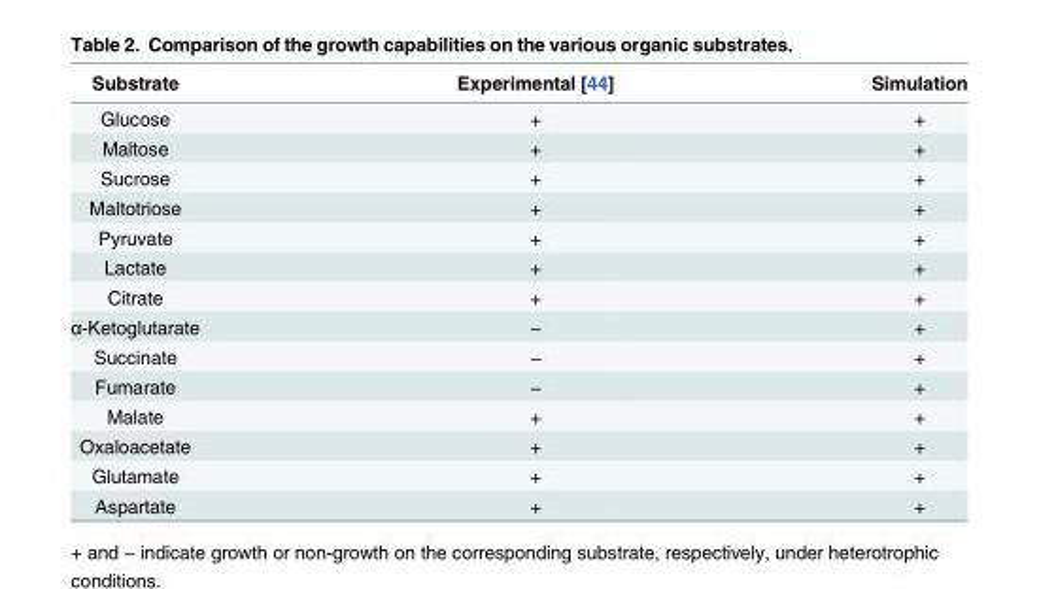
<table><thead><tr><td>Substrate</td><td>Experimental [44]</td><td>Simulation</td></tr></thead><tbody><tr><td>Glucose</td><td>+</td><td>+</td></tr><tr><td>Maltose</td><td>+</td><td>+</td></tr><tr><td>Sucrose</td><td>+</td><td>+</td></tr><tr><td>Maltotriose</td><td>+</td><td>+</td></tr><tr><td>Pyruvate</td><td>+</td><td>+</td></tr><tr><td>Lactate</td><td>+</td><td>+</td></tr><tr><td>Citrate</td><td>+</td><td>+</td></tr><tr><td>α-Ketoglutarate</td><td>−</td><td>+</td></tr><tr><td>Succinate</td><td>−</td><td>+</td></tr><tr><td>Fumarate</td><td>−</td><td>+</td></tr><tr><td>Malate</td><td>+</td><td>+</td></tr><tr><td>Oxaloacetate</td><td>+</td><td>+</td></tr><tr><td>Glutamate</td><td>+</td><td>+</td></tr><tr><td>Aspartate</td><td>+</td><td>+</td></tr></tbody></table>